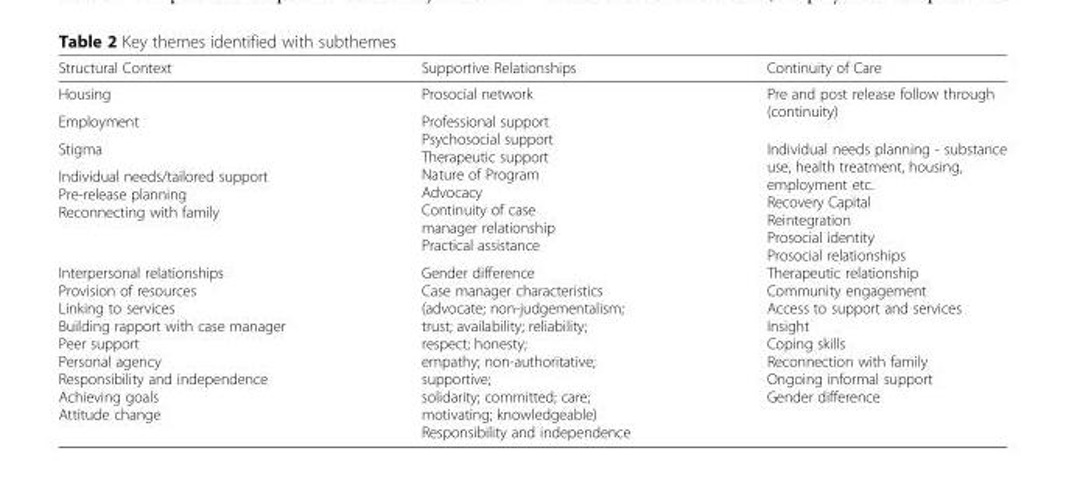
<table><thead><tr><td>Structural Context</td><td>Supportive Relationships</td><td>Continuity of Care</td></tr></thead><tbody><tr><td>Housing</td><td>Prosocial network</td><td rowspan="2">Pre and post release follow through (continuity)</td></tr><tr><td>Employment</td><td rowspan="3">Professional support Psychosocial support Therapeutic support Nature of Program Advocacy Continuity of case manager relationship Practical assistance</td></tr><tr><td>Stigma</td><td rowspan="3">Individual needs planning - substance use, health treatment, housing, employment etc. Recovery Capital Reintegration Prosocial identity Prosocial relationships Therapeutic relationship Community engagement Access to support and services Insight Coping skills Reconnection with family Ongoing informal support Gender difference</td></tr><tr><td>Individual needs/tailored support Pre-release planning Reconnecting with family</td></tr><tr><td>Interpersonal relationships Provision of resources Linking to services Building rapport with case manager Peer support Personal agency Responsibility and independence Achieving goals Attitude change</td><td>Gender difference Case manager characteristics (advocate; non-judgementalism; trust; availability; reliability; respect; honesty; empathy; non-authoritative; supportive; solidarity; committed; care; motivating; knowledgeable) Responsibility and independence</td></tr></tbody></table>